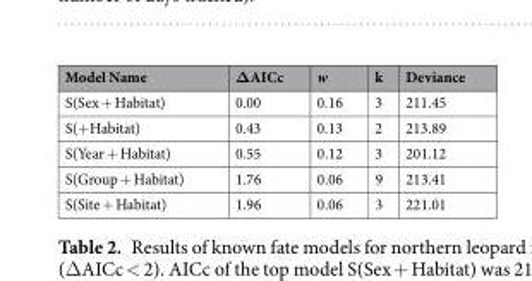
<table><thead><tr><td>Model Name</td><td>ΔAICc</td><td>w</td><td>k</td><td>Deviance</td></tr></thead><tbody><tr><td>S(Sex + Habitat)</td><td>0.00</td><td>0.16</td><td>3</td><td>211.45</td></tr><tr><td>S(+Habitat)</td><td>0.43</td><td>0.13</td><td>2</td><td>213.89</td></tr><tr><td>S(Year + Habitat)</td><td>0.55</td><td>0.12</td><td>3</td><td>201.12</td></tr><tr><td>S(Group + Habitat)</td><td>1.76</td><td>0.06</td><td>9</td><td>213.41</td></tr><tr><td>S(Site + Habitat)</td><td>1.96</td><td>0.06</td><td>3</td><td>221.01</td></tr></tbody></table>